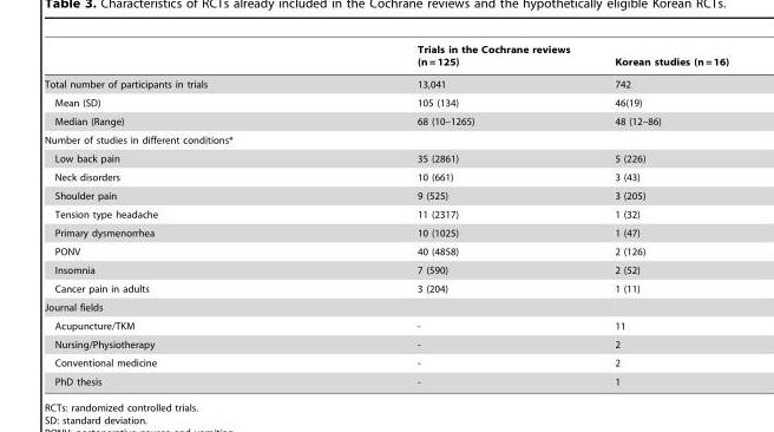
<table><thead><tr><td></td><td>Trials in the Cochrane reviews (n = 125)</td><td>Korean studies (n = 16)</td></tr></thead><tbody><tr><td>Total number of participants in trials</td><td>13,041</td><td>742</td></tr><tr><td>Mean (SD)</td><td>105 (134)</td><td>46(19)</td></tr><tr><td>Median (Range)</td><td>68 (10–1265)</td><td>48 (12–86)</td></tr><tr><td colspan="3">Number of studies in different conditions*</td></tr><tr><td>Low back pain</td><td>35 (2861)</td><td>5 (226)</td></tr><tr><td>Neck disorders</td><td>10 (661)</td><td>3 (43)</td></tr><tr><td>Shoulder pain</td><td>9 (525)</td><td>3 (205)</td></tr><tr><td>Tension type headache</td><td>11 (2317)</td><td>1 (32)</td></tr><tr><td>Primary dysmenorrhea</td><td>10 (1025)</td><td>1 (47)</td></tr><tr><td>PONV</td><td>40 (4858)</td><td>2 (126)</td></tr><tr><td>Insomnia</td><td>7 (590)</td><td>2 (52)</td></tr><tr><td>Cancer pain in adults</td><td>3 (204)</td><td>1 (11)</td></tr><tr><td colspan="3">Journal fields</td></tr><tr><td>Acupuncture/TKM</td><td>-</td><td>11</td></tr><tr><td>Nursing/Physiotherapy</td><td>-</td><td>2</td></tr><tr><td>Conventional medicine</td><td>-</td><td>2</td></tr><tr><td>PhD thesis</td><td>-</td><td>1</td></tr></tbody></table>